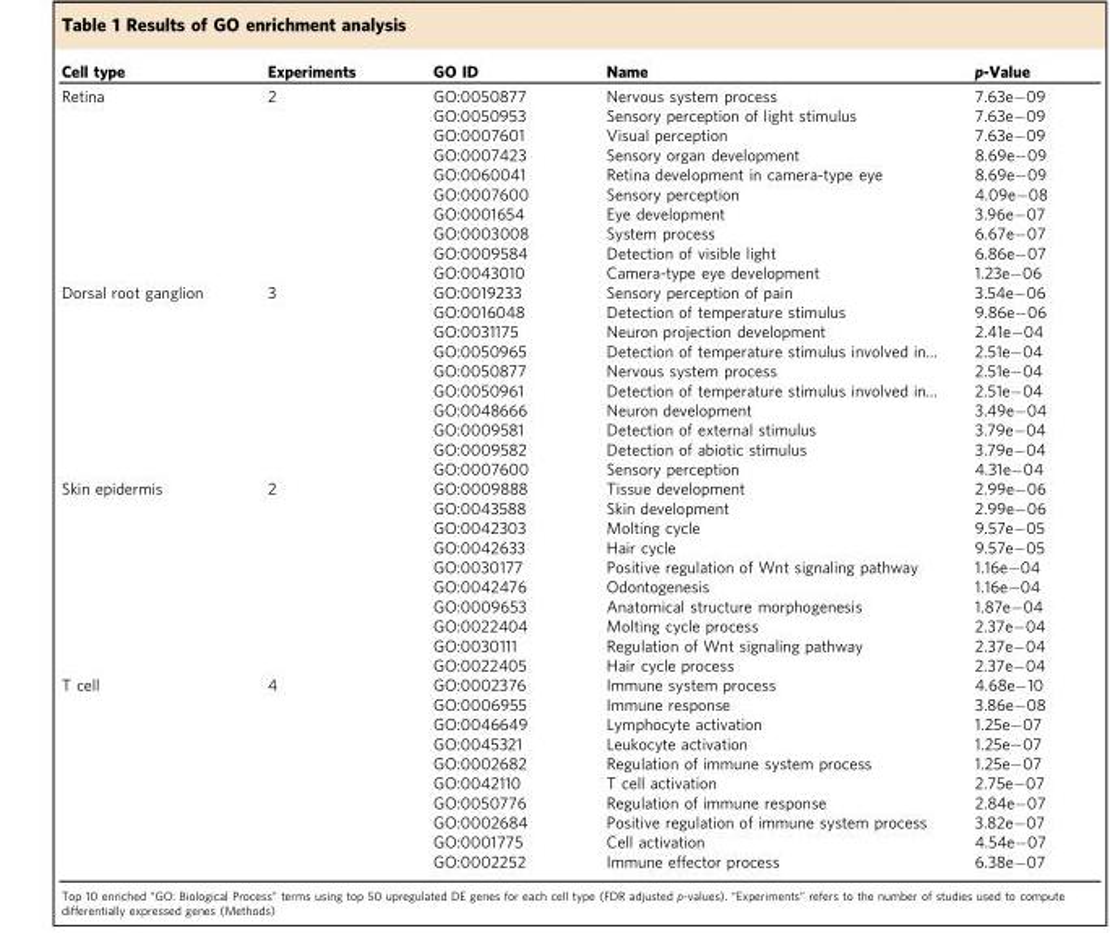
<table><thead><tr><td>Cell type</td><td>Experiments</td><td>GO ID</td><td>Name</td><td>p-Value</td></tr></thead><tbody><tr><td rowspan="10">Retina</td><td>2</td><td>GO:0050877</td><td>Nervous system process</td><td>7.63e−09</td></tr><tr><td></td><td>GO:0050953</td><td>Sensory perception of light stimulus</td><td>7.63e−09</td></tr><tr><td></td><td>GO:0007601</td><td>Visual perception</td><td>7.63e−09</td></tr><tr><td></td><td>GO:0007423</td><td>Sensory organ development</td><td>8.69e−09</td></tr><tr><td></td><td>GO:0060041</td><td>Retina development in camera-type eye</td><td>8.69e−09</td></tr><tr><td></td><td>GO:0007600</td><td>Sensory perception</td><td>4.09e−08</td></tr><tr><td></td><td>GO:0001654</td><td>Eye development</td><td>3.96e−07</td></tr><tr><td></td><td>GO:0003008</td><td>System process</td><td>6.67e−07</td></tr><tr><td></td><td>GO:0009584</td><td>Detection of visible light</td><td>6.86e−07</td></tr><tr><td></td><td>GO:0043010</td><td>Camera-type eye development</td><td>1.23e−06</td></tr><tr><td rowspan="10">Dorsal root ganglion</td><td>3</td><td>GO:0019233</td><td>Sensory perception of pain</td><td>3.54e−06</td></tr><tr><td></td><td>GO:0016048</td><td>Detection of temperature stimulus</td><td>9.86e−06</td></tr><tr><td></td><td>GO:0031175</td><td>Neuron projection development</td><td>2.41e−04</td></tr><tr><td></td><td>GO:0050965</td><td>Detection of temperature stimulus involved in…</td><td>2.51e−04</td></tr><tr><td></td><td>GO:0050877</td><td>Nervous system process</td><td>2.51e−04</td></tr><tr><td></td><td>GO:0050961</td><td>Detection of temperature stimulus involved in…</td><td>2.51e−04</td></tr><tr><td></td><td>GO:0048666</td><td>Neuron development</td><td>3.49e−04</td></tr><tr><td></td><td>GO:0009581</td><td>Detection of external stimulus</td><td>3.79e−04</td></tr><tr><td></td><td>GO:0009582</td><td>Detection of abiotic stimulus</td><td>3.79e−04</td></tr><tr><td></td><td>GO:0007600</td><td>Sensory perception</td><td>4.31e−04</td></tr><tr><td rowspan="10">Skin epidermis</td><td>2</td><td>GO:0009888</td><td>Tissue development</td><td>2.99e−06</td></tr><tr><td></td><td>GO:0043588</td><td>Skin development</td><td>2.99e−06</td></tr><tr><td></td><td>GO:0042303</td><td>Molting cycle</td><td>9.57e−05</td></tr><tr><td></td><td>GO:0042633</td><td>Hair cycle</td><td>9.57e−05</td></tr><tr><td></td><td>GO:0030177</td><td>Positive regulation of Wnt signaling pathway</td><td>1.16e−04</td></tr><tr><td></td><td>GO:0042476</td><td>Odontogenesis</td><td>1.16e−04</td></tr><tr><td></td><td>GO:0009653</td><td>Anatomical structure morphogenesis</td><td>1.87e−04</td></tr><tr><td></td><td>GO:0022404</td><td>Molting cycle process</td><td>2.37e−04</td></tr><tr><td></td><td>GO:0030111</td><td>Regulation of Wnt signaling pathway</td><td>2.37e−04</td></tr><tr><td></td><td>GO:0022405</td><td>Hair cycle process</td><td>2.37e−04</td></tr><tr><td rowspan="10">T cell</td><td>4</td><td>GO:0002376</td><td>Immune system process</td><td>4.68e−10</td></tr><tr><td></td><td>GO:0006955</td><td>Immune response</td><td>3.86e−08</td></tr><tr><td></td><td>GO:0046649</td><td>Lymphocyte activation</td><td>1.25e−07</td></tr><tr><td></td><td>GO:0045321</td><td>Leukocyte activation</td><td>1.25e−07</td></tr><tr><td></td><td>GO:0002682</td><td>Regulation of immune system process</td><td>1.25e−07</td></tr><tr><td></td><td>GO:0042110</td><td>T cell activation</td><td>2.75e−07</td></tr><tr><td></td><td>GO:0050776</td><td>Regulation of immune response</td><td>2.84e−07</td></tr><tr><td></td><td>GO:0002684</td><td>Positive regulation of immune system process</td><td>3.82e−07</td></tr><tr><td></td><td>GO:0001775</td><td>Cell activation</td><td>4.54e−07</td></tr><tr><td></td><td>GO:0002252</td><td>Immune effector process</td><td>6.38e−07</td></tr></tbody></table>